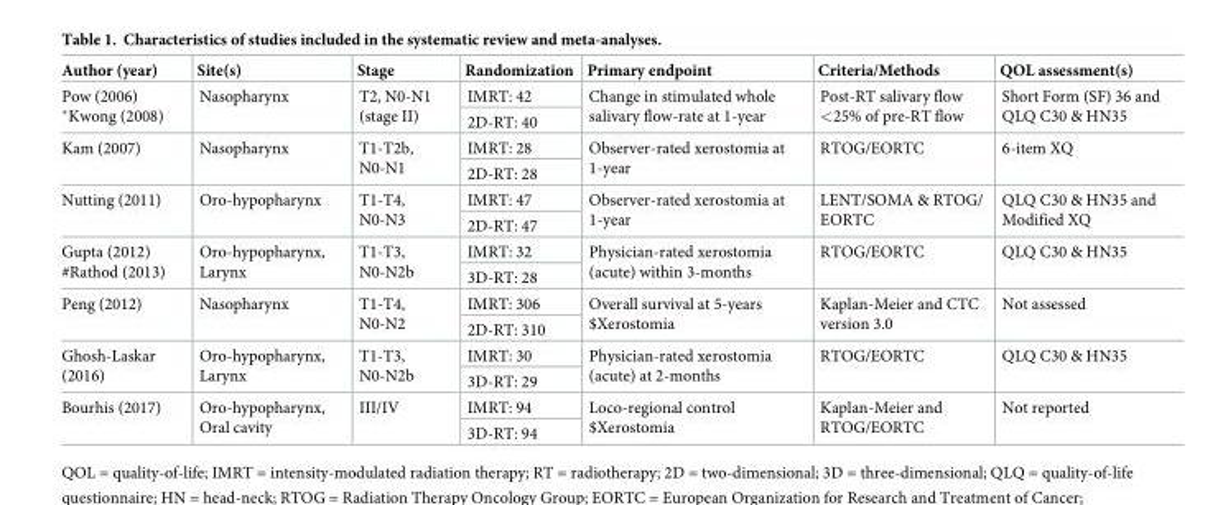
<table><thead><tr><td>Author (year)</td><td>Site(s)</td><td>Stage</td><td>Randomization</td><td>Primary endpoint</td><td>Criteria/Methods</td><td>QOL assessment(s)</td></tr></thead><tbody><tr><td rowspan="2">Pow (2006) *Kwong (2008)</td><td rowspan="2">Nasopharynx</td><td rowspan="2">T2, N0-N1 (stage II)</td><td>IMRT: 42</td><td rowspan="2">Change in stimulated whole salivary flow-rate at 1-year</td><td rowspan="2">Post-RT salivary flow &lt;25% of pre-RT flow</td><td rowspan="2">Short Form (SF) 36 and QLQ C30 &amp; HN35</td></tr><tr><td>2D-RT: 40</td></tr><tr><td rowspan="2">Kam (2007)</td><td rowspan="2">Nasopharynx</td><td rowspan="2">T1-T2b, N0-N1</td><td>IMRT: 28</td><td rowspan="2">Observer-rated xerostomia at 1-year</td><td rowspan="2">RTOG/EORTC</td><td rowspan="2">6-item XQ</td></tr><tr><td>2D-RT: 28</td></tr><tr><td rowspan="2">Nutting (2011)</td><td rowspan="2">Oro-hypopharynx</td><td rowspan="2">T1-T4, N0-N3</td><td>IMRT: 47</td><td rowspan="2">Observer-rated xerostomia at 1-year</td><td rowspan="2">LENT/SOMA &amp; RTOG/ EORTC</td><td rowspan="2">QLQ C30 &amp; HN35 and Modified XQ</td></tr><tr><td>2D-RT: 47</td></tr><tr><td rowspan="2">Gupta (2012) #Rathod (2013)</td><td rowspan="2">Oro-hypopharynx, Larynx</td><td rowspan="2">T1-T3, N0-N2b</td><td>IMRT: 32</td><td rowspan="2">Physician-rated xerostomia (acute) within 3-months</td><td rowspan="2">RTOG/EORTC</td><td rowspan="2">QLQ C30 &amp; HN35</td></tr><tr><td>3D-RT: 28</td></tr><tr><td rowspan="2">Peng (2012)</td><td rowspan="2">Nasopharynx</td><td rowspan="2">T1-T4, N0-N2</td><td>IMRT: 306</td><td rowspan="2">Overall survival at 5-years $Xerostomia</td><td rowspan="2">Kaplan-Meier and CTC version 3.0</td><td rowspan="2">Not assessed</td></tr><tr><td>2D-RT: 310</td></tr><tr><td rowspan="2">Ghosh-Laskar (2016)</td><td rowspan="2">Oro-hypopharynx, Larynx</td><td rowspan="2">T1-T3, N0-N2b</td><td>IMRT: 30</td><td rowspan="2">Physician-rated xerostomia (acute) at 2-months</td><td rowspan="2">RTOG/EORTC</td><td rowspan="2">QLQ C30 &amp; HN35</td></tr><tr><td>3D-RT: 29</td></tr><tr><td rowspan="2">Bourhis (2017)</td><td rowspan="2">Oro-hypopharynx, Oral cavity</td><td rowspan="2">III/IV</td><td>IMRT: 94</td><td rowspan="2">Loco-regional control $Xerostomia</td><td rowspan="2">Kaplan-Meier and RTOG/EORTC</td><td rowspan="2">Not reported</td></tr><tr><td>3D-RT: 94</td></tr></tbody></table>